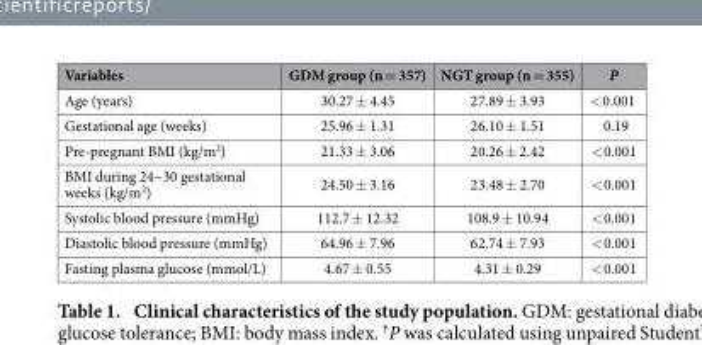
<table><thead><tr><td>Variables</td><td>GDM group (n = 357)</td><td>NGT group (n = 355)</td><td>P</td></tr></thead><tbody><tr><td>Age (years)</td><td>30.27 ± 4.45</td><td>27.89 ± 3.93</td><td>&lt; 0.001</td></tr><tr><td>Gestational age (weeks)</td><td>25.96 ± 1.31</td><td>26.10 ± 1.51</td><td>0.19</td></tr><tr><td>Pre-pregnant BMI (kg/m<sup>2</sup>)</td><td>21.33 ± 3.06</td><td>20.26 ± 2.42</td><td>&lt; 0.001</td></tr><tr><td>BMI during 24~30 gestational weeks (kg/m<sup>2</sup>)</td><td>24.50 ± 3.16</td><td>23.48 ± 2.70</td><td>&lt; 0.001</td></tr><tr><td>Systolic blood pressure (mmHg)</td><td>112.7 ± 12.32</td><td>108.9 ± 10.94</td><td>&lt; 0.001</td></tr><tr><td>Diastolic blood pressure (mmHg)</td><td>64.96 ± 7.96</td><td>62.74 ± 7.93</td><td>&lt; 0.001</td></tr><tr><td>Fasting plasma glucose (mmol/L)</td><td>4.67 ± 0.55</td><td>4.31 ± 0.29</td><td>&lt; 0.001</td></tr></tbody></table>